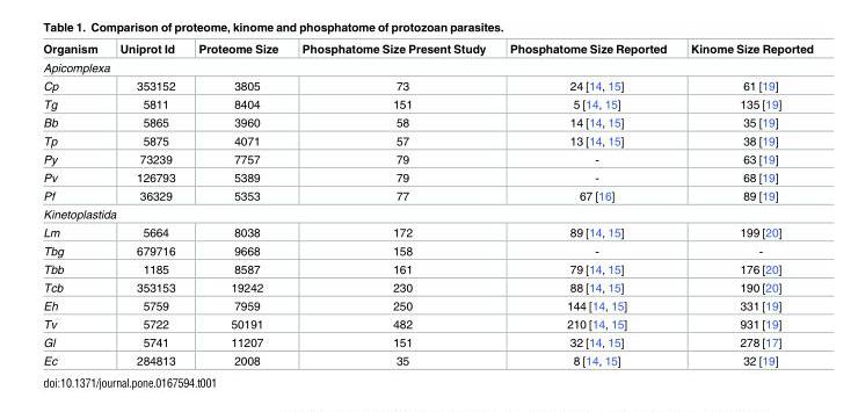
<table><thead><tr><td>Organism</td><td>Uniprot Id</td><td>Proteome Size</td><td>Phosphatome Size Present Study</td><td>Phosphatome Size Reported</td><td>Kinome Size Reported</td></tr></thead><tbody><tr><td colspan="6">Apicomplexa</td></tr><tr><td>Cp</td><td>353152</td><td>3805</td><td>73</td><td>24 [14, 15]</td><td>61 [19]</td></tr><tr><td>Tg</td><td>5811</td><td>8404</td><td>151</td><td>5 [14, 15]</td><td>135 [19]</td></tr><tr><td>Bb</td><td>5865</td><td>3960</td><td>58</td><td>14 [14, 15]</td><td>35 [19]</td></tr><tr><td>Tp</td><td>5875</td><td>4071</td><td>57</td><td>13 [14, 15]</td><td>38 [19]</td></tr><tr><td>Py</td><td>73239</td><td>7757</td><td>79</td><td>-</td><td>63 [19]</td></tr><tr><td>Pv</td><td>126793</td><td>5389</td><td>79</td><td>-</td><td>68 [19]</td></tr><tr><td>Pf</td><td>36329</td><td>5353</td><td>77</td><td>67 [16]</td><td>89 [19]</td></tr><tr><td colspan="6">Kinetoplastida</td></tr><tr><td>Lm</td><td>5664</td><td>8038</td><td>172</td><td>89 [14, 15]</td><td>199 [20]</td></tr><tr><td>Tbg</td><td>679716</td><td>9668</td><td>158</td><td>-</td><td>-</td></tr><tr><td>Tbb</td><td>1185</td><td>8587</td><td>161</td><td>79 [14, 15]</td><td>176 [20]</td></tr><tr><td>Tcb</td><td>353153</td><td>19242</td><td>230</td><td>88 [14, 15]</td><td>190 [20]</td></tr><tr><td>Eh</td><td>5759</td><td>7959</td><td>250</td><td>144 [14, 15]</td><td>331 [19]</td></tr><tr><td>Tv</td><td>5722</td><td>50191</td><td>482</td><td>210 [14, 15]</td><td>931 [19]</td></tr><tr><td>Gl</td><td>5741</td><td>11207</td><td>151</td><td>32 [14, 15]</td><td>278 [17]</td></tr><tr><td>Ec</td><td>284813</td><td>2008</td><td>35</td><td>8 [14, 15]</td><td>32 [19]</td></tr></tbody></table>